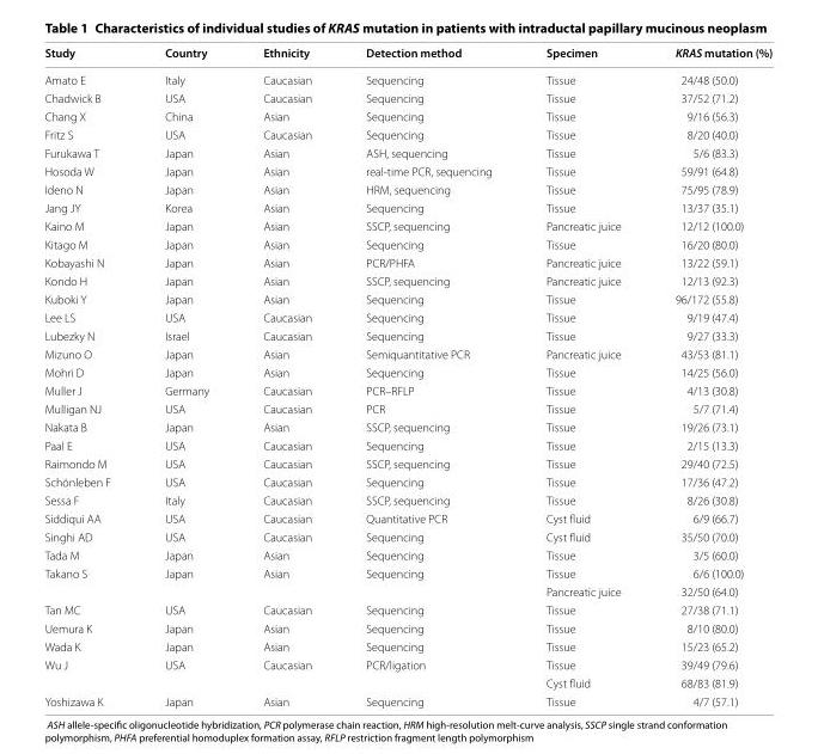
<table><thead><tr><td>Study</td><td>Country</td><td>Ethnicity</td><td>Detection method</td><td>Specimen</td><td>KRAS mutation (%)</td></tr></thead><tbody><tr><td>Amato E</td><td>Italy</td><td>Caucasian</td><td>Sequencing</td><td>Tissue</td><td>24/48 (50.0)</td></tr><tr><td>Chadwick B</td><td>USA</td><td>Caucasian</td><td>Sequencing</td><td>Tissue</td><td>37/52 (71.2)</td></tr><tr><td>Chang X</td><td>China</td><td>Asian</td><td>Sequencing</td><td>Tissue</td><td>9/16 (56.3)</td></tr><tr><td>Fritz S</td><td>USA</td><td>Caucasian</td><td>Sequencing</td><td>Tissue</td><td>8/20 (40.0)</td></tr><tr><td>Furukawa T</td><td>Japan</td><td>Asian</td><td>ASH, sequencing</td><td>Tissue</td><td>5/6 (83.3)</td></tr><tr><td>Hosoda W</td><td>Japan</td><td>Asian</td><td>real‑time PCR, sequencing</td><td>Tissue</td><td>59/91 (64.8)</td></tr><tr><td>Ideno N</td><td>Japan</td><td>Asian</td><td>HRM, sequencing</td><td>Tissue</td><td>75/95 (78.9)</td></tr><tr><td>Jang JY</td><td>Korea</td><td>Asian</td><td>Sequencing</td><td>Tissue</td><td>13/37 (35.1)</td></tr><tr><td>Kaino M</td><td>Japan</td><td>Asian</td><td>SSCP, sequencing</td><td>Pancreatic juice</td><td>12/12 (100.0)</td></tr><tr><td>Kitago M</td><td>Japan</td><td>Asian</td><td>Sequencing</td><td>Tissue</td><td>16/20 (80.0)</td></tr><tr><td>Kobayashi N</td><td>Japan</td><td>Asian</td><td>PCR/PHFA</td><td>Pancreatic juice</td><td>13/22 (59.1)</td></tr><tr><td>Kondo H</td><td>Japan</td><td>Asian</td><td>SSCP, sequencing</td><td>Pancreatic juice</td><td>12/13 (92.3)</td></tr><tr><td>Kuboki Y</td><td>Japan</td><td>Asian</td><td>Sequencing</td><td>Tissue</td><td>96/172 (55.8)</td></tr><tr><td>Lee LS</td><td>USA</td><td>Caucasian</td><td>Sequencing</td><td>Tissue</td><td>9/19 (47.4)</td></tr><tr><td>Lubezky N</td><td>Israel</td><td>Caucasian</td><td>Sequencing</td><td>Tissue</td><td>9/27 (33.3)</td></tr><tr><td>Mizuno O</td><td>Japan</td><td>Asian</td><td>Semiquantitative PCR</td><td>Pancreatic juice</td><td>43/53 (81.1)</td></tr><tr><td>Mohri D</td><td>Japan</td><td>Asian</td><td>Sequencing</td><td>Tissue</td><td>14/25 (56.0)</td></tr><tr><td>Muller J</td><td>Germany</td><td>Caucasian</td><td>PCR–RFLP</td><td>Tissue</td><td>4/13 (30.8)</td></tr><tr><td>Mulligan NJ</td><td>USA</td><td>Caucasian</td><td>PCR</td><td>Tissue</td><td>5/7 (71.4)</td></tr><tr><td>Nakata B</td><td>Japan</td><td>Asian</td><td>SSCP, sequencing</td><td>Tissue</td><td>19/26 (73.1)</td></tr><tr><td>Paal E</td><td>USA</td><td>Caucasian</td><td>Sequencing</td><td>Tissue</td><td>2/15 (13.3)</td></tr><tr><td>Raimondo M</td><td>USA</td><td>Caucasian</td><td>SSCP, sequencing</td><td>Tissue</td><td>29/40 (72.5)</td></tr><tr><td>Schönleben F</td><td>USA</td><td>Caucasian</td><td>Sequencing</td><td>Tissue</td><td>17/36 (47.2)</td></tr><tr><td>Sessa F</td><td>Italy</td><td>Caucasian</td><td>SSCP, sequencing</td><td>Tissue</td><td>8/26 (30.8)</td></tr><tr><td>Siddiqui AA</td><td>USA</td><td>Caucasian</td><td>Quantitative PCR</td><td>Cyst fluid</td><td>6/9 (66.7)</td></tr><tr><td>Singhi AD</td><td>USA</td><td>Caucasian</td><td>Sequencing</td><td>Cyst fluid</td><td>35/50 (70.0)</td></tr><tr><td>Tada M</td><td>Japan</td><td>Asian</td><td>Sequencing</td><td>Tissue</td><td>3/5 (60.0)</td></tr><tr><td rowspan="2">Takano S</td><td>Japan</td><td>Asian</td><td>Sequencing</td><td>Tissue</td><td>6/6 (100.0)</td></tr><tr><td></td><td></td><td></td><td>Pancreatic juice</td><td>32/50 (64.0)</td></tr><tr><td>Tan MC</td><td>USA</td><td>Caucasian</td><td>Sequencing</td><td>Tissue</td><td>27/38 (71.1)</td></tr><tr><td>Uemura K</td><td>Japan</td><td>Asian</td><td>Sequencing</td><td>Tissue</td><td>8/10 (80.0)</td></tr><tr><td>Wada K</td><td>Japan</td><td>Asian</td><td>Sequencing</td><td>Tissue</td><td>15/23 (65.2)</td></tr><tr><td rowspan="2">Wu J</td><td>USA</td><td>Caucasian</td><td>PCR/ligation</td><td>Tissue</td><td>39/49 (79.6)</td></tr><tr><td></td><td></td><td></td><td>Cyst fluid</td><td>68/83 (81.9)</td></tr><tr><td>Yoshizawa K</td><td>Japan</td><td>Asian</td><td>Sequencing</td><td>Tissue</td><td>4/7 (57.1)</td></tr></tbody></table>